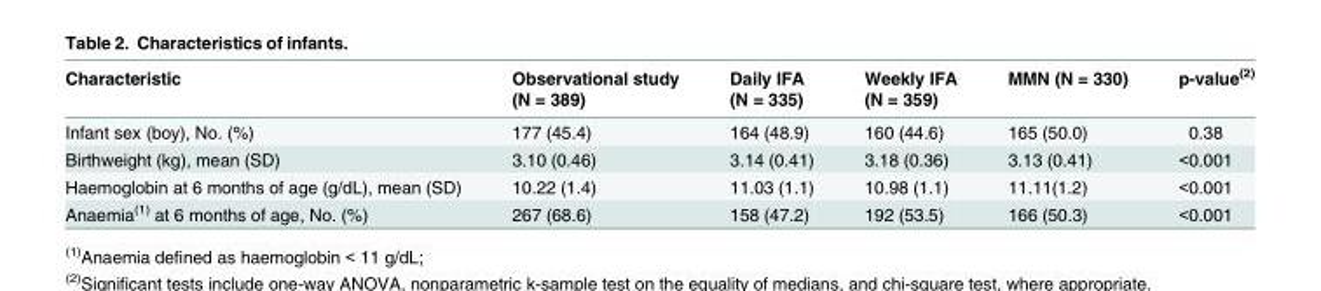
<table><thead><tr><td>Characteristic</td><td>Observational study (N = 389)</td><td>Daily IFA (N = 335)</td><td>Weekly IFA (N = 359)</td><td>MMN (N = 330)</td><td>p-value<sup>(2)</sup></td></tr></thead><tbody><tr><td>Infant sex (boy), No. (%)</td><td>177 (45.4)</td><td>164 (48.9)</td><td>160 (44.6)</td><td>165 (50.0)</td><td>0.38</td></tr><tr><td>Birthweight (kg), mean (SD)</td><td>3.10 (0.46)</td><td>3.14 (0.41)</td><td>3.18 (0.36)</td><td>3.13 (0.41)</td><td>&lt;0.001</td></tr><tr><td>Haemoglobin at 6 months of age (g/dL), mean (SD)</td><td>10.22 (1.4)</td><td>11.03 (1.1)</td><td>10.98 (1.1)</td><td>11.11(1.2)</td><td>&lt;0.001</td></tr><tr><td>Anaemia<sup>(1)</sup> at 6 months of age, No. (%)</td><td>267 (68.6)</td><td>158 (47.2)</td><td>192 (53.5)</td><td>166 (50.3)</td><td>&lt;0.001</td></tr></tbody></table>